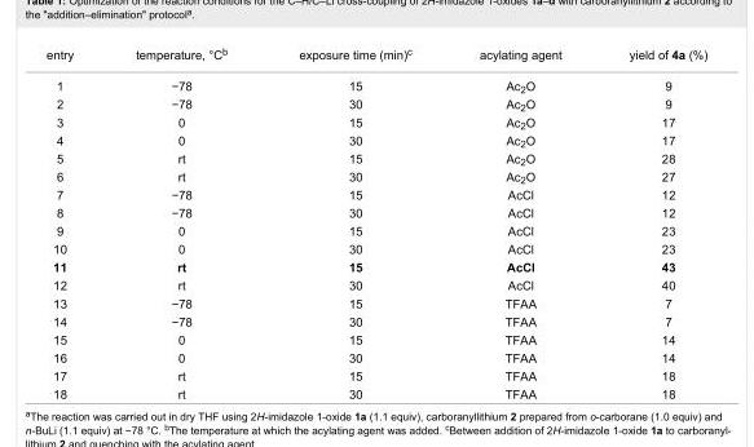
<table><tbody><tr><td>entry</td><td>temperature, °C<sup>b</sup></td><td>exposure time (min)<sup>c</sup></td><td>acylating agent</td><td>yield of 4a (%)</td></tr><tr><td>1</td><td>−78</td><td>15</td><td>Ac<sub>2</sub>O</td><td>9</td></tr><tr><td>2</td><td>−78</td><td>30</td><td>Ac<sub>2</sub>O</td><td>9</td></tr><tr><td>3</td><td>0</td><td>15</td><td>Ac<sub>2</sub>O</td><td>17</td></tr><tr><td>4</td><td>0</td><td>30</td><td>Ac<sub>2</sub>O</td><td>17</td></tr><tr><td>5</td><td>rt</td><td>15</td><td>Ac<sub>2</sub>O</td><td>28</td></tr><tr><td>6</td><td>rt</td><td>30</td><td>Ac<sub>2</sub>O</td><td>27</td></tr><tr><td>7</td><td>−78</td><td>15</td><td>AcCl</td><td>12</td></tr><tr><td>8</td><td>−78</td><td>30</td><td>AcCl</td><td>12</td></tr><tr><td>9</td><td>0</td><td>15</td><td>AcCl</td><td>23</td></tr><tr><td>10</td><td>0</td><td>30</td><td>AcCl</td><td>23</td></tr><tr><td>11</td><td>rt</td><td>15</td><td>AcCl</td><td>43</td></tr><tr><td>12</td><td>rt</td><td>30</td><td>AcCl</td><td>40</td></tr><tr><td>13</td><td>−78</td><td>15</td><td>TFAA</td><td>7</td></tr><tr><td>14</td><td>−78</td><td>30</td><td>TFAA</td><td>7</td></tr><tr><td>15</td><td>0</td><td>15</td><td>TFAA</td><td>14</td></tr><tr><td>16</td><td>0</td><td>30</td><td>TFAA</td><td>14</td></tr><tr><td>17</td><td>rt</td><td>15</td><td>TFAA</td><td>18</td></tr><tr><td>18</td><td>rt</td><td>30</td><td>TFAA</td><td>18</td></tr></tbody></table>